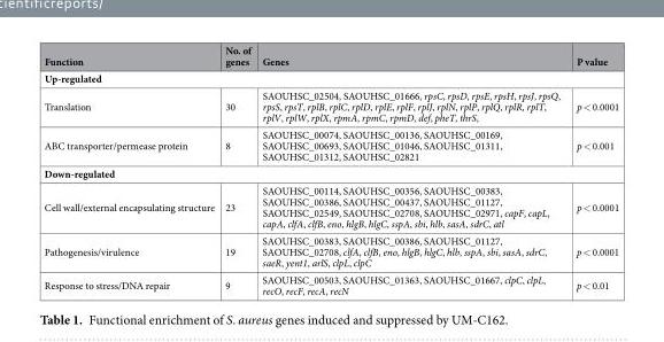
<table><thead><tr><td>Function</td><td>No. of genes</td><td>Genes</td><td>P value</td></tr></thead><tbody><tr><td colspan="4">Up-regulated</td></tr><tr><td>Translation</td><td>30</td><td>SAOUHSC_02504, SAOUHSC_01666, rpsC, rpsD, rpsE, rpsH, rpsJ, rpsQ, rpsS, rpsT, rplB, rplC, rplD, rplE, rplF, rplJ, rplN, rplP, rplQ, rplR, rplT, rplV, rplW, rplX, rpmA, rpmC, rpmD, def, pheT, thrS,</td><td>p &lt; 0.0001</td></tr><tr><td>ABC transporter/permease protein</td><td>8</td><td>SAOUHSC_00074, SAOUHSC_00136, SAOUHSC_00169, SAOUHSC_00693, SAOUHSC_01046, SAOUHSC_01311, SAOUHSC_01312, SAOUHSC_02821</td><td>p &lt; 0.001</td></tr><tr><td colspan="4">Down-regulated</td></tr><tr><td>Cell wall/external encapsulating structure</td><td>23</td><td>SAOUHSC_00114, SAOUHSC_00356, SAOUHSC_00383, SAOUHSC_00386, SAOUHSC_00437, SAOUHSC_01127, SAOUHSC_02549, SAOUHSC_02708, SAOUHSC_02971, capF, capL, capA, clfA, clfB, eno, hlgB, hlgC, sspA, sbi, hlb, sasA, sdrC, atl</td><td>p &lt; 0.0001</td></tr><tr><td>Pathogenesis/virulence</td><td>19</td><td>SAOUHSC_00383, SAOUHSC_00386, SAOUHSC_01127, SAOUHSC_02708, clfA, clfB, eno, hlgB, hlgC, hlb, sspA, sbi, sasA, sdrC, saeR, yent1, arlS, clpL, clpC</td><td>p &lt; 0.0001</td></tr><tr><td>Response to stress/DNA repair</td><td>9</td><td>SAOUHSC_00503, SAOUHSC_01363, SAOUHSC_01667, clpC, clpL, recO, recF, recA, recN</td><td>p &lt; 0.01</td></tr></tbody></table>